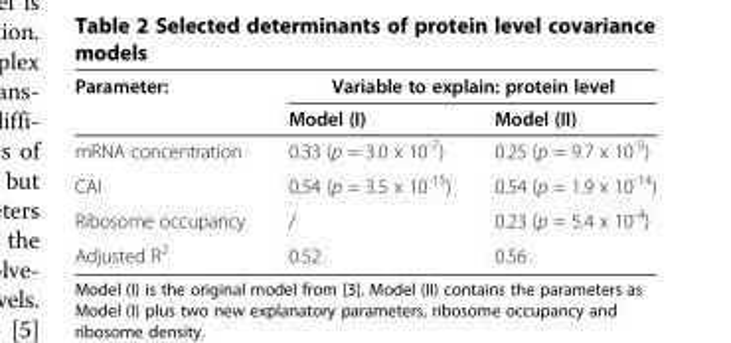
<table><thead><tr><td rowspan="2">Parameter:</td><td colspan="2">Variable to explain: protein level</td></tr><tr><td>Model (I)</td><td>Model (II)</td></tr></thead><tbody><tr><td>mRNA concentration</td><td>0.33 (p = 3.0 x 10<sup>-7</sup>)</td><td>0.25 (p = 9.7 x 10<sup>-5</sup>)</td></tr><tr><td>CAI</td><td>0.54 (p = 3.5 x 10<sup>-15</sup>)</td><td>0.54 (p = 1.9 x 10<sup>-14</sup>)</td></tr><tr><td>Ribosome occupancy</td><td>/</td><td>0.23 (p = 5.4 x 10<sup>-4</sup>)</td></tr><tr><td>Adjusted R<sup>2</sup></td><td>0.52</td><td>0.56</td></tr></tbody></table>